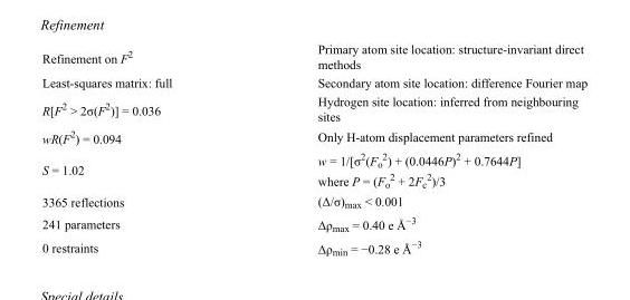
<table><tbody><tr><td>Refinement on F<sup>2</sup></td><td>Primary atom site location: structure-invariant direct methods</td></tr><tr><td>Least-squares matrix: full</td><td>Secondary atom site location: difference Fourier map</td></tr><tr><td>R[F<sup>2</sup> &gt; 2σ(F<sup>2</sup>)] = 0.036</td><td>Hydrogen site location: inferred from neighbouring sites</td></tr><tr><td>wR(F<sup>2</sup>) = 0.094</td><td>Only H-atom displacement parameters refined</td></tr><tr><td>S = 1.02</td><td>w = 1/[σ<sup>2</sup>(F<sub>o</sub> <sup>2</sup>) + (0.0446P)<sup>2</sup> + 0.7644P] where P = (F<sub>o</sub> <sup>2</sup> + 2F<sub>c</sub> <sup>2</sup>)/3</td></tr><tr><td>3365 reflections</td><td>(Δ/σ)<sub>max</sub> &lt; 0.001</td></tr><tr><td>241 parameters</td><td>Δρ<sub>max</sub> = 0.40 e Å<sup>−3</sup></td></tr><tr><td>0 restraints</td><td>Δρ<sub>min</sub> = −0.28 e Å<sup>−3</sup></td></tr></tbody></table>